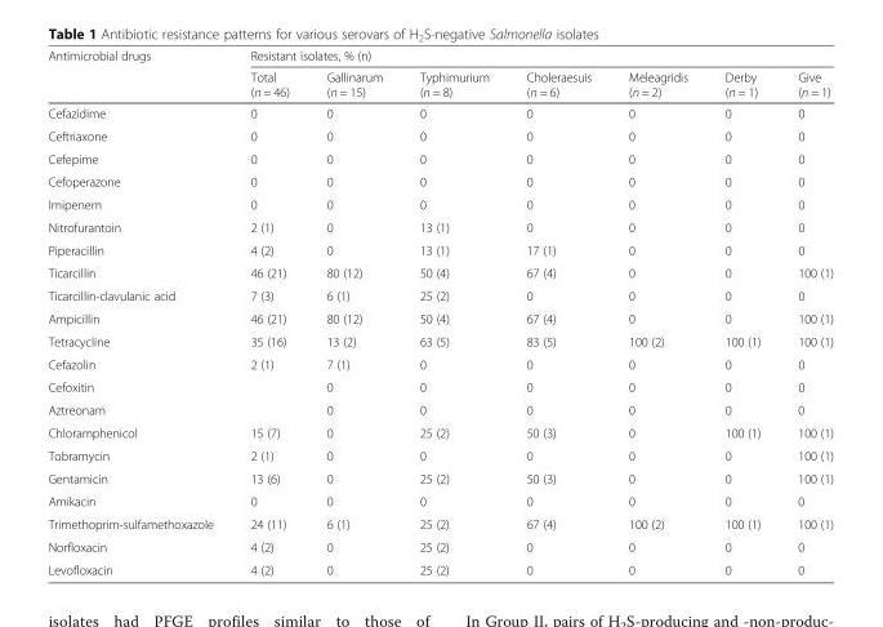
<table><thead><tr><td rowspan="2">Antimicrobial drugs</td><td colspan="7">Resistant isolates, % (n)</td></tr><tr><td>Total (n = 46)</td><td>Gallinarum (n = 15)</td><td>Typhimurium (n = 8)</td><td>Choleraesuis (n = 6)</td><td>Meleagridis (n = 2)</td><td>Derby (n = 1)</td><td>Give (n = 1)</td></tr></thead><tbody><tr><td>Cefazidime</td><td>0</td><td>0</td><td>0</td><td>0</td><td>0</td><td>0</td><td>0</td></tr><tr><td>Ceftriaxone</td><td>0</td><td>0</td><td>0</td><td>0</td><td>0</td><td>0</td><td>0</td></tr><tr><td>Cefepime</td><td>0</td><td>0</td><td>0</td><td>0</td><td>0</td><td>0</td><td>0</td></tr><tr><td>Cefoperazone</td><td>0</td><td>0</td><td>0</td><td>0</td><td>0</td><td>0</td><td>0</td></tr><tr><td>Imipenem</td><td>0</td><td>0</td><td>0</td><td>0</td><td>0</td><td>0</td><td>0</td></tr><tr><td>Nitrofurantoin</td><td>2 (1)</td><td>0</td><td>13 (1)</td><td>0</td><td>0</td><td>0</td><td>0</td></tr><tr><td>Piperacillin</td><td>4 (2)</td><td>0</td><td>13 (1)</td><td>17 (1)</td><td>0</td><td>0</td><td>0</td></tr><tr><td>Ticarcillin</td><td>46 (21)</td><td>80 (12)</td><td>50 (4)</td><td>67 (4)</td><td>0</td><td>0</td><td>100 (1)</td></tr><tr><td>Ticarcillin-clavulanic acid</td><td>7 (3)</td><td>6 (1)</td><td>25 (2)</td><td>0</td><td>0</td><td>0</td><td>0</td></tr><tr><td>Ampicillin</td><td>46 (21)</td><td>80 (12)</td><td>50 (4)</td><td>67 (4)</td><td>0</td><td>0</td><td>100 (1)</td></tr><tr><td>Tetracycline</td><td>35 (16)</td><td>13 (2)</td><td>63 (5)</td><td>83 (5)</td><td>100 (2)</td><td>100 (1)</td><td>100 (1)</td></tr><tr><td>Cefazolin</td><td>2 (1)</td><td>7 (1)</td><td>0</td><td>0</td><td>0</td><td>0</td><td>0</td></tr><tr><td>Cefoxitin</td><td></td><td>0</td><td>0</td><td>0</td><td>0</td><td>0</td><td>0</td></tr><tr><td>Aztreonam</td><td></td><td>0</td><td>0</td><td>0</td><td>0</td><td>0</td><td>0</td></tr><tr><td>Chloramphenicol</td><td>15 (7)</td><td>0</td><td>25 (2)</td><td>50 (3)</td><td>0</td><td>100 (1)</td><td>100 (1)</td></tr><tr><td>Tobramycin</td><td>2 (1)</td><td>0</td><td>0</td><td>0</td><td>0</td><td>0</td><td>100 (1)</td></tr><tr><td>Gentamicin</td><td>13 (6)</td><td>0</td><td>25 (2)</td><td>50 (3)</td><td>0</td><td>0</td><td>100 (1)</td></tr><tr><td>Amikacin</td><td>0</td><td>0</td><td>0</td><td>0</td><td>0</td><td>0</td><td>0</td></tr><tr><td>Trimethoprim-sulfamethoxazole</td><td>24 (11)</td><td>6 (1)</td><td>25 (2)</td><td>67 (4)</td><td>100 (2)</td><td>100 (1)</td><td>100 (1)</td></tr><tr><td>Norfloxacin</td><td>4 (2)</td><td>0</td><td>25 (2)</td><td>0</td><td>0</td><td>0</td><td>0</td></tr><tr><td>Levofloxacin</td><td>4 (2)</td><td>0</td><td>25 (2)</td><td>0</td><td>0</td><td>0</td><td>0</td></tr></tbody></table>